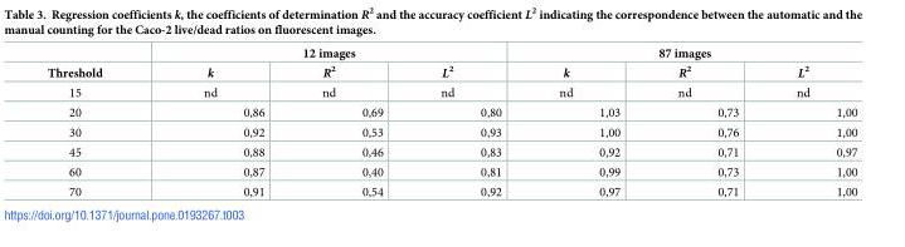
<table><thead><tr><td rowspan="2">Threshold</td><td colspan="3">12 images</td><td colspan="3">87 images</td></tr><tr><td>k</td><td>R<sup>2</sup></td><td>L<sup>2</sup></td><td>k</td><td>R<sup>2</sup></td><td>L<sup>2</sup></td></tr></thead><tbody><tr><td>15</td><td>nd</td><td>nd</td><td>nd</td><td>nd</td><td>nd</td><td>nd</td></tr><tr><td>20</td><td>0,86</td><td>0,69</td><td>0,80</td><td>1,03</td><td>0,73</td><td>1,00</td></tr><tr><td>30</td><td>0,92</td><td>0,53</td><td>0,93</td><td>1,00</td><td>0,76</td><td>1,00</td></tr><tr><td>45</td><td>0,88</td><td>0,46</td><td>0,83</td><td>0,92</td><td>0,71</td><td>0,97</td></tr><tr><td>60</td><td>0,87</td><td>0,40</td><td>0,81</td><td>0,99</td><td>0,73</td><td>1,00</td></tr><tr><td>70</td><td>0,91</td><td>0,54</td><td>0,92</td><td>0,97</td><td>0,71</td><td>1,00</td></tr></tbody></table>